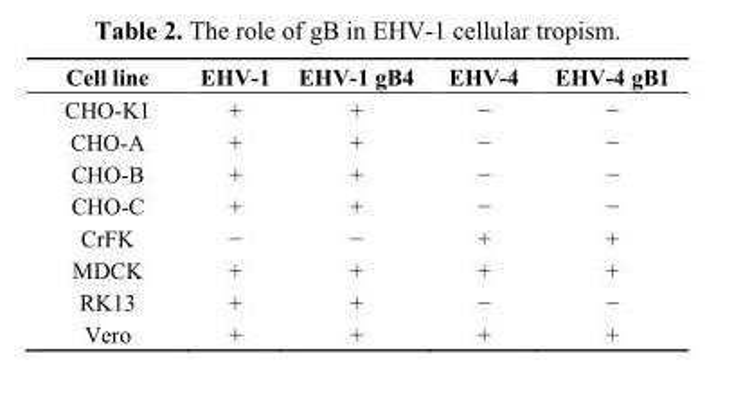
<table><thead><tr><td>Cell line</td><td>EHV-1</td><td>EHV-1 gB4</td><td>EHV-4</td><td>EHV-4 gB1</td></tr></thead><tbody><tr><td>CHO-K1</td><td>+</td><td>+</td><td>−</td><td>−</td></tr><tr><td>CHO-A</td><td>+</td><td>+</td><td>−</td><td>−</td></tr><tr><td>CHO-B</td><td>+</td><td>+</td><td>−</td><td>−</td></tr><tr><td>CHO-C</td><td>+</td><td>+</td><td>−</td><td>−</td></tr><tr><td>CrFK</td><td>−</td><td>−</td><td>+</td><td>+</td></tr><tr><td>MDCK</td><td>+</td><td>+</td><td>+</td><td>+</td></tr><tr><td>RK13</td><td>+</td><td>+</td><td>−</td><td>−</td></tr><tr><td>Vero</td><td>+</td><td>+</td><td>+</td><td>+</td></tr></tbody></table>